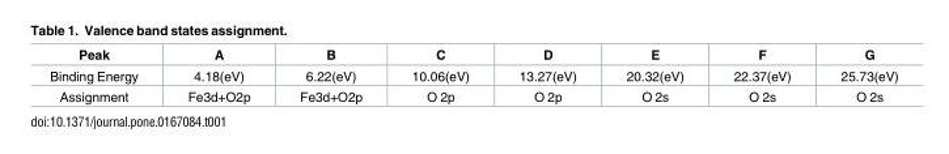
<table><thead><tr><td>Peak</td><td>A</td><td>B</td><td>C</td><td>D</td><td>E</td><td>F</td><td>G</td></tr></thead><tbody><tr><td>Binding Energy</td><td>4.18(eV)</td><td>6.22(eV)</td><td>10.06(eV)</td><td>13.27(eV)</td><td>20.32(eV)</td><td>22.37(eV)</td><td>25.73(eV)</td></tr><tr><td>Assignment</td><td>Fe3d+O2p</td><td>Fe3d+O2p</td><td>O 2p</td><td>O 2p</td><td>O 2s</td><td>O 2s</td><td>O 2s</td></tr></tbody></table>